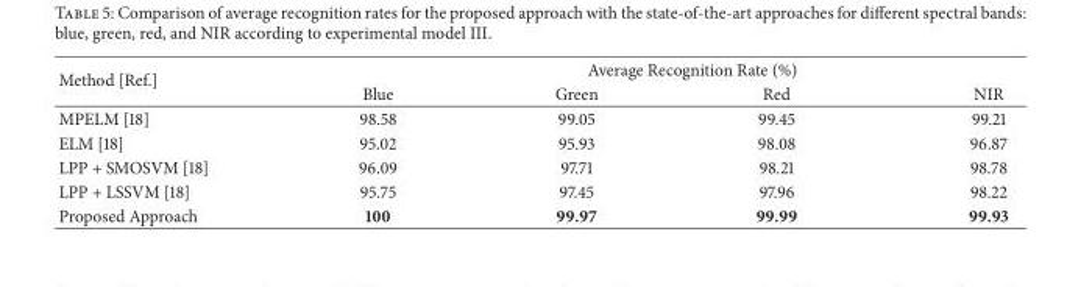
<table><thead><tr><td rowspan="2">Method [Ref.]</td><td colspan="4">Average Recognition Rate (%)</td></tr><tr><td>Blue</td><td>Green</td><td>Red</td><td>NIR</td></tr></thead><tbody><tr><td>MPELM [18]</td><td>98.58</td><td>99.05</td><td>99.45</td><td>99.21</td></tr><tr><td>ELM [18]</td><td>95.02</td><td>95.93</td><td>98.08</td><td>96.87</td></tr><tr><td>LPP + SMOSVM [18]</td><td>96.09</td><td>97.71</td><td>98.21</td><td>98.78</td></tr><tr><td>LPP + LSSVM [18]</td><td>95.75</td><td>97.45</td><td>97.96</td><td>98.22</td></tr><tr><td>Proposed Approach</td><td>100</td><td>99.97</td><td>99.99</td><td>99.93</td></tr></tbody></table>